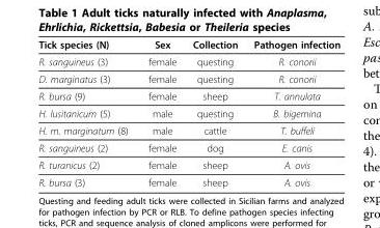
<table><thead><tr><td>Tick species (N)</td><td>Sex</td><td>Collection</td><td>Pathogen infection</td></tr></thead><tbody><tr><td>R. sanguineus (3)</td><td>female</td><td>questing</td><td>R. conorii</td></tr><tr><td>D. marginatus (3)</td><td>female</td><td>questing</td><td>R. conorii</td></tr><tr><td>R. bursa (9)</td><td>female</td><td>sheep</td><td>T. annulata</td></tr><tr><td>H. lusitanicum (5)</td><td>male</td><td>questing</td><td>B. bigemina</td></tr><tr><td>H. m. marginatum (8)</td><td>male</td><td>cattle</td><td>T. buffeli</td></tr><tr><td>R. sanguineus (2)</td><td>female</td><td>dog</td><td>E. canis</td></tr><tr><td>R. turanicus (2)</td><td>female</td><td>sheep</td><td>A. ovis</td></tr><tr><td>R. bursa (3)</td><td>female</td><td>sheep</td><td>A. ovis</td></tr></tbody></table>